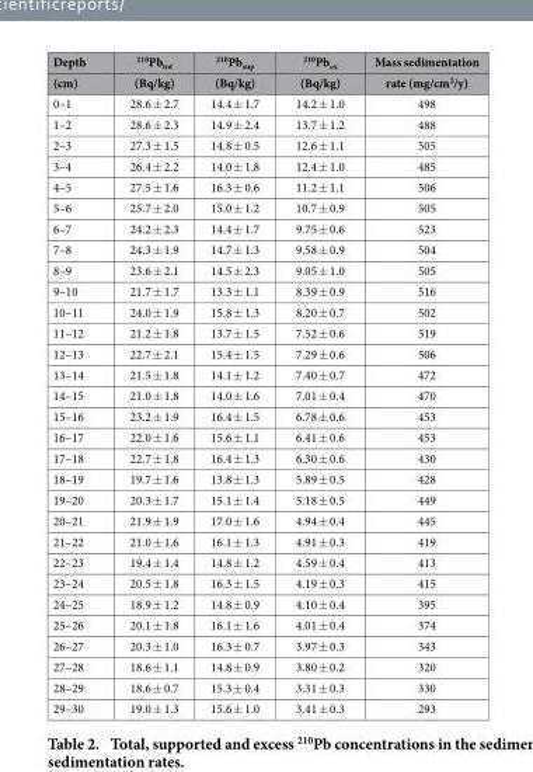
<table><thead><tr><td rowspan="2">Depth (cm)</td><td rowspan="2"><sup>210</sup>Pb<sub>tot</sub> (Bq/kg)</td><td rowspan="2"><sup>210</sup>Pb<sub>sup</sub> (Bq/kg)</td><td rowspan="2"><sup>210</sup>Pb<sub>ex</sub> (Bq/kg)</td><td rowspan="2">Mass sedimentation rate (mg/cm<sup>2</sup>/y)</td></tr><tr></tr></thead><tbody><tr><td>0–1</td><td>28.6 ± 2.7</td><td>14.4 ± 1.7</td><td>14.2 ± 1.0</td><td>498</td></tr><tr><td>1–2</td><td>28.6 ± 2.3</td><td>14.9 ± 2.4</td><td>13.7 ± 1.2</td><td>488</td></tr><tr><td>2–3</td><td>27.3 ± 1.5</td><td>14.8 ± 0.5</td><td>12.6 ± 1.1</td><td>505</td></tr><tr><td>3–4</td><td>26.4 ± 2.2</td><td>14.0 ± 1.8</td><td>12.4 ± 1.0</td><td>485</td></tr><tr><td>4–5</td><td>27.5 ± 1.6</td><td>16.3 ± 0.6</td><td>11.2 ± 1.1</td><td>506</td></tr><tr><td>5–6</td><td>25.7 ± 2.0</td><td>15.0 ± 1.2</td><td>10.7 ± 0.9</td><td>505</td></tr><tr><td>6–7</td><td>24.2 ± 2.3</td><td>14.4 ± 1.7</td><td>9.75 ± 0.6</td><td>523</td></tr><tr><td>7–8</td><td>24.3 ± 1.9</td><td>14.7 ± 1.3</td><td>9.58 ± 0.9</td><td>504</td></tr><tr><td>8–9</td><td>23.6 ± 2.1</td><td>14.5 ± 2.3</td><td>9.05 ± 1.0</td><td>505</td></tr><tr><td>9–10</td><td>21.7 ± 1.7</td><td>13.3 ± 1.1</td><td>8.39 ± 0.9</td><td>516</td></tr><tr><td>10–11</td><td>24.0 ± 1.9</td><td>15.8 ± 1.3</td><td>8.20 ± 0.7</td><td>502</td></tr><tr><td>11–12</td><td>21.2 ± 1.8</td><td>13.7 ± 1.5</td><td>7.52 ± 0.6</td><td>519</td></tr><tr><td>12–13</td><td>22.7 ± 2.1</td><td>15.4 ± 1.5</td><td>7.29 ± 0.6</td><td>506</td></tr><tr><td>13–14</td><td>21.5 ± 1.8</td><td>14.1 ± 1.2</td><td>7.40 ± 0.7</td><td>472</td></tr><tr><td>14–15</td><td>21.0 ± 1.8</td><td>14.0 ± 1.6</td><td>7.01 ± 0.4</td><td>470</td></tr><tr><td>15–16</td><td>23.2 ± 1.9</td><td>16.4 ± 1.5</td><td>6.78 ± 0.6</td><td>453</td></tr><tr><td>16–17</td><td>22.0 ± 1.6</td><td>15.6 ± 1.1</td><td>6.41 ± 0.6</td><td>453</td></tr><tr><td>17–18</td><td>22.7 ± 1.8</td><td>16.4 ± 1.3</td><td>6.30 ± 0.6</td><td>430</td></tr><tr><td>18–19</td><td>19.7 ± 1.6</td><td>13.8 ± 1.3</td><td>5.89 ± 0.5</td><td>428</td></tr><tr><td>19–20</td><td>20.3 ± 1.7</td><td>15.1 ± 1.4</td><td>5.18 ± 0.5</td><td>449</td></tr><tr><td>20–21</td><td>21.9 ± 1.9</td><td>17.0 ± 1.6</td><td>4.94 ± 0.4</td><td>445</td></tr><tr><td>21–22</td><td>21.0 ± 1.6</td><td>16.1 ± 1.3</td><td>4.91 ± 0.3</td><td>419</td></tr><tr><td>22–23</td><td>19.4 ± 1.4</td><td>14.8 ± 1.2</td><td>4.59 ± 0.4</td><td>413</td></tr><tr><td>23–24</td><td>20.5 ± 1.8</td><td>16.3 ± 1.5</td><td>4.19 ± 0.3</td><td>415</td></tr><tr><td>24–25</td><td>18.9 ± 1.2</td><td>14.8 ± 0.9</td><td>4.10 ± 0.4</td><td>395</td></tr><tr><td>25–26</td><td>20.1 ± 1.8</td><td>16.1 ± 1.6</td><td>4.01 ± 0.4</td><td>374</td></tr><tr><td>26–27</td><td>20.3 ± 1.0</td><td>16.3 ± 0.7</td><td>3.97 ± 0.3</td><td>343</td></tr><tr><td>27–28</td><td>18.6 ± 1.1</td><td>14.8 ± 0.9</td><td>3.80 ± 0.2</td><td>320</td></tr><tr><td>28–29</td><td>18.6 ± 0.7</td><td>15.3 ± 0.4</td><td>3.31 ± 0.3</td><td>330</td></tr><tr><td>29–30</td><td>19.0 ± 1.3</td><td>15.6 ± 1.0</td><td>3.41 ± 0.3</td><td>293</td></tr></tbody></table>